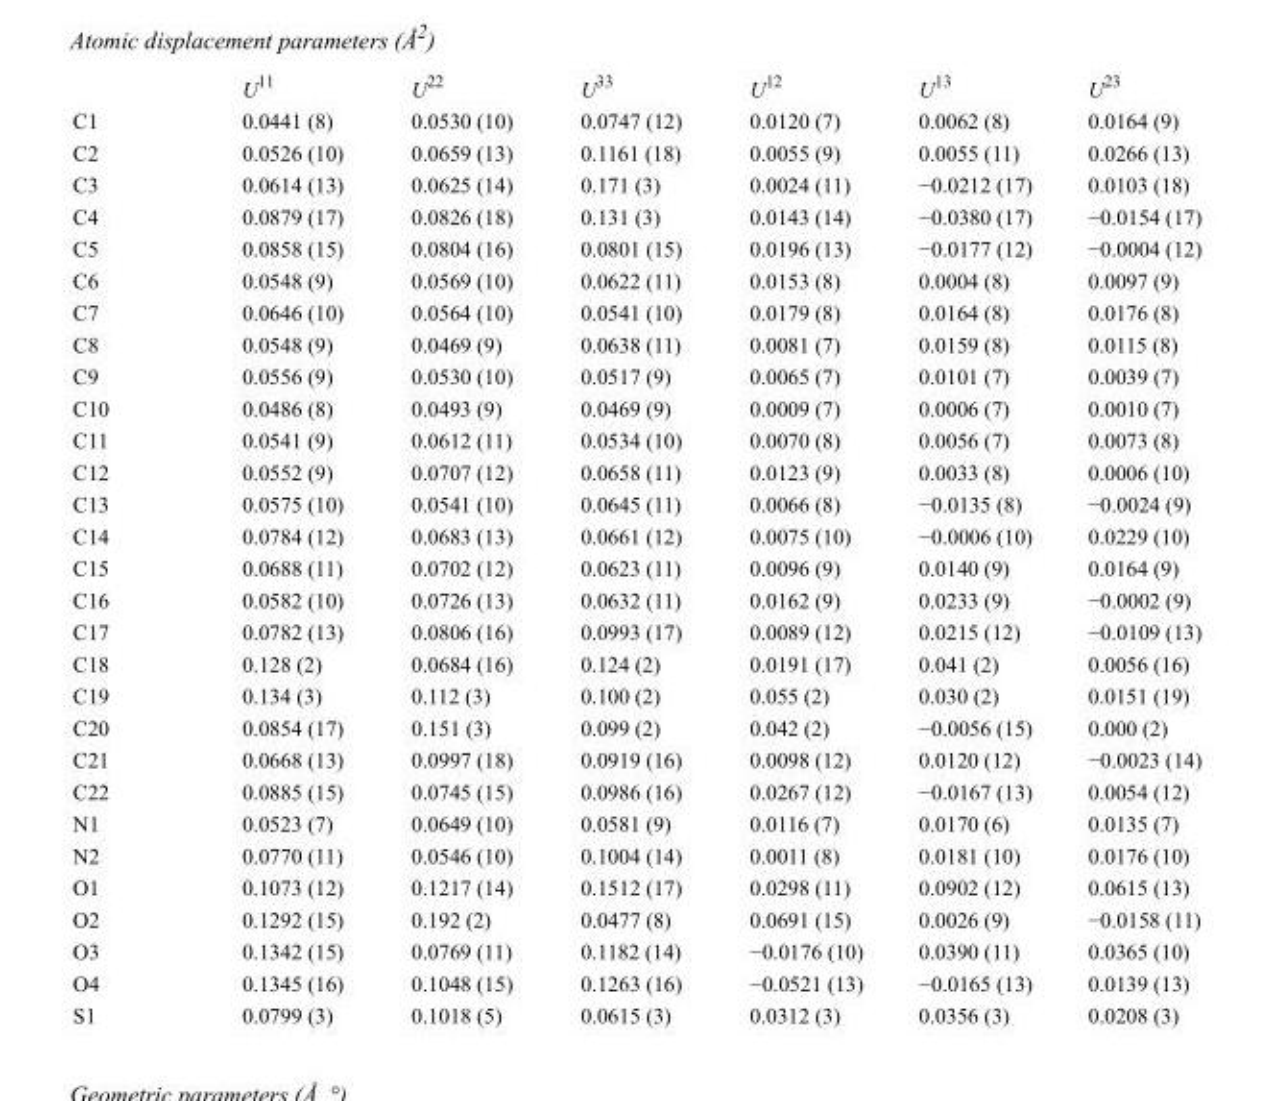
<table><thead><tr><td></td><td>U<sup>11</sup></td><td>U<sup>22</sup></td><td>U<sup>33</sup></td><td>U<sup>12</sup></td><td>U<sup>13</sup></td><td>U<sup>23</sup></td></tr></thead><tbody><tr><td>C1</td><td>0.0441 (8)</td><td>0.0530 (10)</td><td>0.0747 (12)</td><td>0.0120 (7)</td><td>0.0062 (8)</td><td>0.0164 (9)</td></tr><tr><td>C2</td><td>0.0526 (10)</td><td>0.0659 (13)</td><td>0.1161 (18)</td><td>0.0055 (9)</td><td>0.0055 (11)</td><td>0.0266 (13)</td></tr><tr><td>C3</td><td>0.0614 (13)</td><td>0.0625 (14)</td><td>0.171 (3)</td><td>0.0024 (11)</td><td>−0.0212 (17)</td><td>0.0103 (18)</td></tr><tr><td>C4</td><td>0.0879 (17)</td><td>0.0826 (18)</td><td>0.131 (3)</td><td>0.0143 (14)</td><td>−0.0380 (17)</td><td>−0.0154 (17)</td></tr><tr><td>C5</td><td>0.0858 (15)</td><td>0.0804 (16)</td><td>0.0801 (15)</td><td>0.0196 (13)</td><td>−0.0177 (12)</td><td>−0.0004 (12)</td></tr><tr><td>C6</td><td>0.0548 (9)</td><td>0.0569 (10)</td><td>0.0622 (11)</td><td>0.0153 (8)</td><td>0.0004 (8)</td><td>0.0097 (9)</td></tr><tr><td>C7</td><td>0.0646 (10)</td><td>0.0564 (10)</td><td>0.0541 (10)</td><td>0.0179 (8)</td><td>0.0164 (8)</td><td>0.0176 (8)</td></tr><tr><td>C8</td><td>0.0548 (9)</td><td>0.0469 (9)</td><td>0.0638 (11)</td><td>0.0081 (7)</td><td>0.0159 (8)</td><td>0.0115 (8)</td></tr><tr><td>C9</td><td>0.0556 (9)</td><td>0.0530 (10)</td><td>0.0517 (9)</td><td>0.0065 (7)</td><td>0.0101 (7)</td><td>0.0039 (7)</td></tr><tr><td>C10</td><td>0.0486 (8)</td><td>0.0493 (9)</td><td>0.0469 (9)</td><td>0.0009 (7)</td><td>0.0006 (7)</td><td>0.0010 (7)</td></tr><tr><td>C11</td><td>0.0541 (9)</td><td>0.0612 (11)</td><td>0.0534 (10)</td><td>0.0070 (8)</td><td>0.0056 (7)</td><td>0.0073 (8)</td></tr><tr><td>C12</td><td>0.0552 (9)</td><td>0.0707 (12)</td><td>0.0658 (11)</td><td>0.0123 (9)</td><td>0.0033 (8)</td><td>0.0006 (10)</td></tr><tr><td>C13</td><td>0.0575 (10)</td><td>0.0541 (10)</td><td>0.0645 (11)</td><td>0.0066 (8)</td><td>−0.0135 (8)</td><td>−0.0024 (9)</td></tr><tr><td>C14</td><td>0.0784 (12)</td><td>0.0683 (13)</td><td>0.0661 (12)</td><td>0.0075 (10)</td><td>−0.0006 (10)</td><td>0.0229 (10)</td></tr><tr><td>C15</td><td>0.0688 (11)</td><td>0.0702 (12)</td><td>0.0623 (11)</td><td>0.0096 (9)</td><td>0.0140 (9)</td><td>0.0164 (9)</td></tr><tr><td>C16</td><td>0.0582 (10)</td><td>0.0726 (13)</td><td>0.0632 (11)</td><td>0.0162 (9)</td><td>0.0233 (9)</td><td>−0.0002 (9)</td></tr><tr><td>C17</td><td>0.0782 (13)</td><td>0.0806 (16)</td><td>0.0993 (17)</td><td>0.0089 (12)</td><td>0.0215 (12)</td><td>−0.0109 (13)</td></tr><tr><td>C18</td><td>0.128 (2)</td><td>0.0684 (16)</td><td>0.124 (2)</td><td>0.0191 (17)</td><td>0.041 (2)</td><td>0.0056 (16)</td></tr><tr><td>C19</td><td>0.134 (3)</td><td>0.112 (3)</td><td>0.100 (2)</td><td>0.055 (2)</td><td>0.030 (2)</td><td>0.0151 (19)</td></tr><tr><td>C20</td><td>0.0854 (17)</td><td>0.151 (3)</td><td>0.099 (2)</td><td>0.042 (2)</td><td>−0.0056 (15)</td><td>0.000 (2)</td></tr><tr><td>C21</td><td>0.0668 (13)</td><td>0.0997 (18)</td><td>0.0919 (16)</td><td>0.0098 (12)</td><td>0.0120 (12)</td><td>−0.0023 (14)</td></tr><tr><td>C22</td><td>0.0885 (15)</td><td>0.0745 (15)</td><td>0.0986 (16)</td><td>0.0267 (12)</td><td>−0.0167 (13)</td><td>0.0054 (12)</td></tr><tr><td>N1</td><td>0.0523 (7)</td><td>0.0649 (10)</td><td>0.0581 (9)</td><td>0.0116 (7)</td><td>0.0170 (6)</td><td>0.0135 (7)</td></tr><tr><td>N2</td><td>0.0770 (11)</td><td>0.0546 (10)</td><td>0.1004 (14)</td><td>0.0011 (8)</td><td>0.0181 (10)</td><td>0.0176 (10)</td></tr><tr><td>O1</td><td>0.1073 (12)</td><td>0.1217 (14)</td><td>0.1512 (17)</td><td>0.0298 (11)</td><td>0.0902 (12)</td><td>0.0615 (13)</td></tr><tr><td>O2</td><td>0.1292 (15)</td><td>0.192 (2)</td><td>0.0477 (8)</td><td>0.0691 (15)</td><td>0.0026 (9)</td><td>−0.0158 (11)</td></tr><tr><td>O3</td><td>0.1342 (15)</td><td>0.0769 (11)</td><td>0.1182 (14)</td><td>−0.0176 (10)</td><td>0.0390 (11)</td><td>0.0365 (10)</td></tr><tr><td>O4</td><td>0.1345 (16)</td><td>0.1048 (15)</td><td>0.1263 (16)</td><td>−0.0521 (13)</td><td>−0.0165 (13)</td><td>0.0139 (13)</td></tr><tr><td>S1</td><td>0.0799 (3)</td><td>0.1018 (5)</td><td>0.0615 (3)</td><td>0.0312 (3)</td><td>0.0356 (3)</td><td>0.0208 (3)</td></tr></tbody></table>